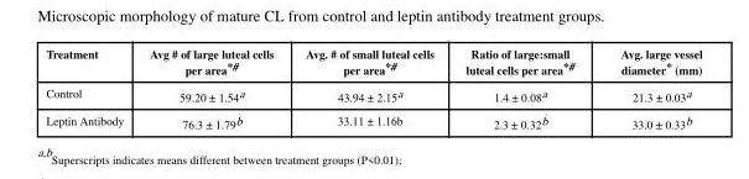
<table><thead><tr><td>Treatment</td><td>Avg # of large luteal cells per area*#</td><td>Avg. # of small luteal cells per area*#</td><td>Ratio of large:small luteal cells per area*#</td><td>Avg. large vessel diameter* (mm)</td></tr></thead><tbody><tr><td>Control</td><td>59.20 ± 1.54<sup>a</sup></td><td>43.94 ± 2.15<sup>a</sup></td><td>1.4 ± 0.08<sup>a</sup></td><td>21.3 ± 0.03<sup>a</sup></td></tr><tr><td>Leptin Antibody</td><td>76.3 ± 1.79<sup>b</sup></td><td>33.11 ± 1.16b</td><td>2.3 ± 0.32<sup>b</sup></td><td>33.0 ± 0.33<sup>b</sup></td></tr></tbody></table>